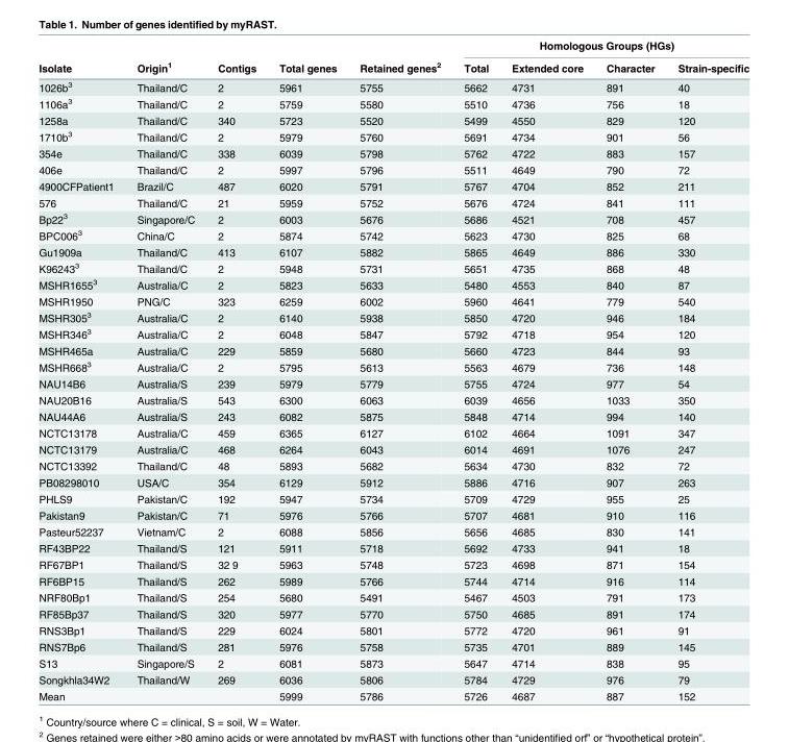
<table><thead><tr><td rowspan="2">Isolate</td><td rowspan="2">Origin<sup>1</sup></td><td rowspan="2">Contigs</td><td rowspan="2">Total genes</td><td rowspan="2">Retained genes<sup>2</sup></td><td colspan="4">Homologous Groups (HGs)</td></tr><tr><td>Total</td><td>Extended core</td><td>Character</td><td>Strain-specific</td></tr></thead><tbody><tr><td>1026b<sup>3</sup></td><td>Thailand/C</td><td>2</td><td>5961</td><td>5755</td><td>5662</td><td>4731</td><td>891</td><td>40</td></tr><tr><td>1106a<sup>3</sup></td><td>Thailand/C</td><td>2</td><td>5759</td><td>5580</td><td>5510</td><td>4736</td><td>756</td><td>18</td></tr><tr><td>1258a</td><td>Thailand/C</td><td>340</td><td>5723</td><td>5520</td><td>5499</td><td>4550</td><td>829</td><td>120</td></tr><tr><td>1710b<sup>3</sup></td><td>Thailand/C</td><td>2</td><td>5979</td><td>5760</td><td>5691</td><td>4734</td><td>901</td><td>56</td></tr><tr><td>354e</td><td>Thailand/C</td><td>338</td><td>6039</td><td>5798</td><td>5762</td><td>4722</td><td>883</td><td>157</td></tr><tr><td>406e</td><td>Thailand/C</td><td>2</td><td>5997</td><td>5796</td><td>5511</td><td>4649</td><td>790</td><td>72</td></tr><tr><td>4900CFPatient1</td><td>Brazil/C</td><td>487</td><td>6020</td><td>5791</td><td>5767</td><td>4704</td><td>852</td><td>211</td></tr><tr><td>576</td><td>Thailand/C</td><td>21</td><td>5959</td><td>5752</td><td>5676</td><td>4724</td><td>841</td><td>111</td></tr><tr><td>Bp22<sup>3</sup></td><td>Singapore/C</td><td>2</td><td>6003</td><td>5676</td><td>5686</td><td>4521</td><td>708</td><td>457</td></tr><tr><td>BPC006<sup>3</sup></td><td>China/C</td><td>2</td><td>5874</td><td>5742</td><td>5623</td><td>4730</td><td>825</td><td>68</td></tr><tr><td>Gu1909a</td><td>Thailand/C</td><td>413</td><td>6107</td><td>5882</td><td>5865</td><td>4649</td><td>886</td><td>330</td></tr><tr><td>K96243<sup>3</sup></td><td>Thailand/C</td><td>2</td><td>5948</td><td>5731</td><td>5651</td><td>4735</td><td>868</td><td>48</td></tr><tr><td>MSHR1655<sup>3</sup></td><td>Australia/C</td><td>2</td><td>5823</td><td>5633</td><td>5480</td><td>4553</td><td>840</td><td>87</td></tr><tr><td>MSHR1950</td><td>PNG/C</td><td>323</td><td>6259</td><td>6002</td><td>5960</td><td>4641</td><td>779</td><td>540</td></tr><tr><td>MSHR305<sup>3</sup></td><td>Australia/C</td><td>2</td><td>6140</td><td>5938</td><td>5850</td><td>4720</td><td>946</td><td>184</td></tr><tr><td>MSHR346<sup>3</sup></td><td>Australia/C</td><td>2</td><td>6048</td><td>5847</td><td>5792</td><td>4718</td><td>954</td><td>120</td></tr><tr><td>MSHR465a</td><td>Australia/C</td><td>229</td><td>5859</td><td>5680</td><td>5660</td><td>4723</td><td>844</td><td>93</td></tr><tr><td>MSHR668<sup>3</sup></td><td>Australia/C</td><td>2</td><td>5795</td><td>5613</td><td>5563</td><td>4679</td><td>736</td><td>148</td></tr><tr><td>NAU14B6</td><td>Australia/S</td><td>239</td><td>5979</td><td>5779</td><td>5755</td><td>4724</td><td>977</td><td>54</td></tr><tr><td>NAU20B16</td><td>Australia/S</td><td>543</td><td>6300</td><td>6063</td><td>6039</td><td>4656</td><td>1033</td><td>350</td></tr><tr><td>NAU44A6</td><td>Australia/S</td><td>243</td><td>6082</td><td>5875</td><td>5848</td><td>4714</td><td>994</td><td>140</td></tr><tr><td>NCTC13178</td><td>Australia/C</td><td>459</td><td>6365</td><td>6127</td><td>6102</td><td>4664</td><td>1091</td><td>347</td></tr><tr><td>NCTC13179</td><td>Australia/C</td><td>468</td><td>6264</td><td>6043</td><td>6014</td><td>4691</td><td>1076</td><td>247</td></tr><tr><td>NCTC13392</td><td>Thailand/C</td><td>48</td><td>5893</td><td>5682</td><td>5634</td><td>4730</td><td>832</td><td>72</td></tr><tr><td>PB08298010</td><td>USA/C</td><td>354</td><td>6129</td><td>5912</td><td>5886</td><td>4716</td><td>907</td><td>263</td></tr><tr><td>PHLS9</td><td>Pakistan/C</td><td>192</td><td>5947</td><td>5734</td><td>5709</td><td>4729</td><td>955</td><td>25</td></tr><tr><td>Pakistan9</td><td>Pakistan/C</td><td>71</td><td>5976</td><td>5766</td><td>5707</td><td>4681</td><td>910</td><td>116</td></tr><tr><td>Pasteur52237</td><td>Vietnam/C</td><td>2</td><td>6088</td><td>5856</td><td>5656</td><td>4685</td><td>830</td><td>141</td></tr><tr><td>RF43BP22</td><td>Thailand/S</td><td>121</td><td>5911</td><td>5718</td><td>5692</td><td>4733</td><td>941</td><td>18</td></tr><tr><td>RF67BP1</td><td>Thailand/S</td><td>32 9</td><td>5963</td><td>5748</td><td>5723</td><td>4698</td><td>871</td><td>154</td></tr><tr><td>RF6BP15</td><td>Thailand/S</td><td>262</td><td>5989</td><td>5766</td><td>5744</td><td>4714</td><td>916</td><td>114</td></tr><tr><td>NRF80Bp1</td><td>Thailand/S</td><td>254</td><td>5680</td><td>5491</td><td>5467</td><td>4503</td><td>791</td><td>173</td></tr><tr><td>RF85Bp37</td><td>Thailand/S</td><td>320</td><td>5977</td><td>5770</td><td>5750</td><td>4685</td><td>891</td><td>174</td></tr><tr><td>RNS3Bp1</td><td>Thailand/S</td><td>229</td><td>6024</td><td>5801</td><td>5772</td><td>4720</td><td>961</td><td>91</td></tr><tr><td>RNS7Bp6</td><td>Thailand/S</td><td>281</td><td>5976</td><td>5758</td><td>5735</td><td>4701</td><td>889</td><td>145</td></tr><tr><td>S13</td><td>Singapore/S</td><td>2</td><td>6081</td><td>5873</td><td>5647</td><td>4714</td><td>838</td><td>95</td></tr><tr><td>Songkhla34W2</td><td>Thailand/W</td><td>269</td><td>6036</td><td>5806</td><td>5784</td><td>4729</td><td>976</td><td>79</td></tr><tr><td>Mean</td><td></td><td></td><td>5999</td><td>5786</td><td>5726</td><td>4687</td><td>887</td><td>152</td></tr></tbody></table>